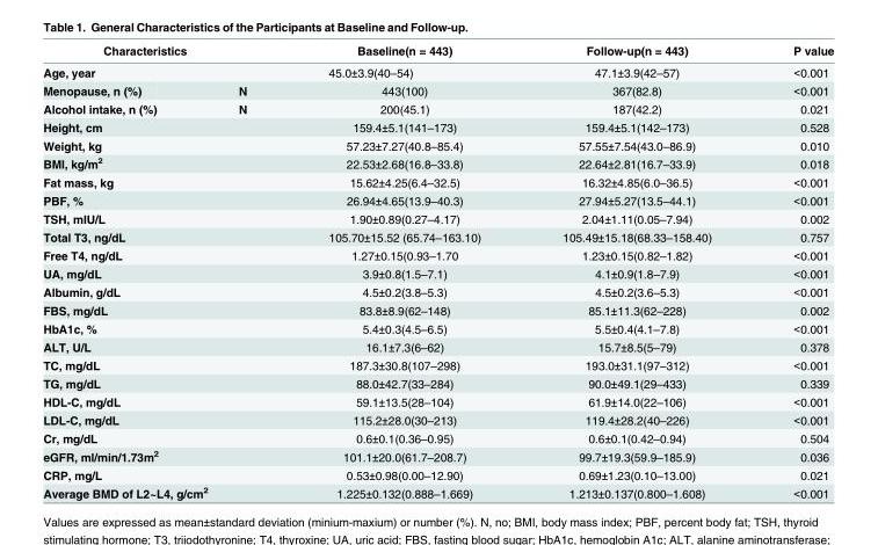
<table><thead><tr><td rowspan="2" colspan="2">Characteristics Age, year</td><td rowspan="3">Baseline(n = 443) 45.0±3.9(40–54) 443(100)</td><td rowspan="3">Follow-up(n = 443) 47.1±3.9(42–57) 367(82.8)</td><td rowspan="3">P value &lt;0.001 &lt;0.001</td></tr><tr></tr><tr><td>Menopause, n (%)</td><td>N</td></tr></thead><tbody><tr><td>Alcohol intake, n (%)</td><td>N</td><td>200(45.1)</td><td>187(42.2)</td><td>0.021</td></tr><tr><td colspan="2">Height, cm</td><td>159.4±5.1(141–173)</td><td>159.4±5.1(142–173)</td><td>0.528</td></tr><tr><td colspan="2">Weight, kg</td><td>57.23±7.27(40.8–85.4)</td><td>57.55±7.54(43.0–86.9)</td><td>0.010</td></tr><tr><td colspan="2">BMI, kg/m<sup>2</sup></td><td>22.53±2.68(16.8–33.8)</td><td>22.64±2.81(16.7–33.9)</td><td>0.018</td></tr><tr><td colspan="2">Fat mass, kg</td><td>15.62±4.25(6.4–32.5)</td><td>16.32±4.85(6.0–36.5)</td><td>&lt;0.001</td></tr><tr><td colspan="2">PBF, %</td><td>26.94±4.65(13.9–40.3)</td><td>27.94±5.27(13.5–44.1)</td><td>&lt;0.001</td></tr><tr><td colspan="2">TSH, mIU/L</td><td>1.90±0.89(0.27–4.17)</td><td>2.04±1.11(0.05–7.94)</td><td>0.002</td></tr><tr><td colspan="2">Total T3, ng/dL</td><td>105.70±15.52 (65.74–163.10)</td><td>105.49±15.18(68.33–158.40)</td><td>0.757</td></tr><tr><td colspan="2">Free T4, ng/dL</td><td>1.27±0.15(0.93–1.70</td><td>1.23±0.15(0.82–1.82)</td><td>&lt;0.001</td></tr><tr><td colspan="2">UA, mg/dL</td><td>3.9±0.8(1.5–7.1)</td><td>4.1±0.9(1.8–7.9)</td><td>&lt;0.001</td></tr><tr><td colspan="2">Albumin, g/dL</td><td>4.5±0.2(3.8–5.3)</td><td>4.5±0.2(3.6–5.3)</td><td>&lt;0.001</td></tr><tr><td colspan="2">FBS, mg/dL</td><td>83.8±8.9(62–148)</td><td>85.1±11.3(62–228)</td><td>0.002</td></tr><tr><td colspan="2">HbA1c, %</td><td>5.4±0.3(4.5–6.5)</td><td>5.5±0.4(4.1–7.8)</td><td>&lt;0.001</td></tr><tr><td colspan="2">ALT, U/L</td><td>16.1±7.3(6–62)</td><td>15.7±8.5(5–79)</td><td>0.378</td></tr><tr><td colspan="2">TC, mg/dL</td><td>187.3±30.8(107–298)</td><td>193.0±31.1(97–312)</td><td>&lt;0.001</td></tr><tr><td colspan="2">TG, mg/dL</td><td>88.0±42.7(33–284)</td><td>90.0±49.1(29–433)</td><td>0.339</td></tr><tr><td colspan="2">HDL-C, mg/dL</td><td>59.1±13.5(28–104)</td><td>61.9±14.0(22–106)</td><td>&lt;0.001</td></tr><tr><td colspan="2">LDL-C, mg/dL</td><td>115.2±28.0(30–213)</td><td>119.4±28.2(40–226)</td><td>&lt;0.001</td></tr><tr><td colspan="2">Cr, mg/dL</td><td>0.6±0.1(0.36–0.95)</td><td>0.6±0.1(0.42–0.94)</td><td>0.504</td></tr><tr><td colspan="2">eGFR, ml/min/1.73m<sup>2</sup></td><td>101.1±20.0(61.7–208.7)</td><td>99.7±19.3(59.9–185.9)</td><td>0.036</td></tr><tr><td colspan="2">CRP, mg/L</td><td>0.53±0.98(0.00–12.90)</td><td>0.69±1.23(0.10–13.00)</td><td>0.021</td></tr><tr><td colspan="2">Average BMD of L2~L4, g/cm<sup>2</sup></td><td>1.225±0.132(0.888–1.669)</td><td>1.213±0.137(0.800–1.608)</td><td>&lt;0.001</td></tr></tbody></table>